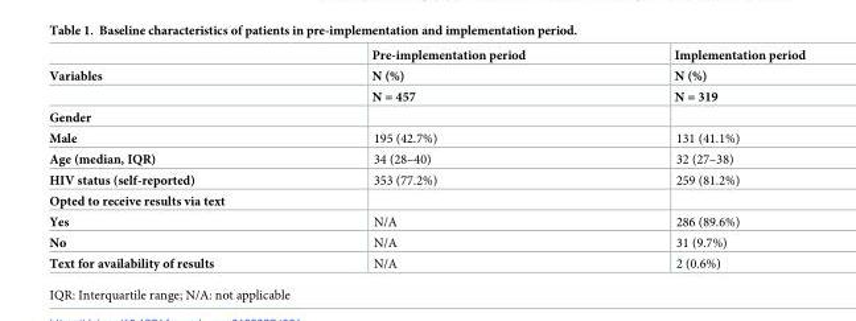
<table><thead><tr><td rowspan="3">Variables</td><td rowspan="3">Pre-implementation period N (%) N = 457</td><td rowspan="3">Implementation period N (%) N = 319</td></tr><tr></tr><tr></tr></thead><tbody><tr><td colspan="3">Gender</td></tr><tr><td>Male</td><td>195 (42.7%)</td><td>131 (41.1%)</td></tr><tr><td>Age (median, IQR)</td><td>34 (28–40)</td><td>32 (27–38)</td></tr><tr><td>HIV status (self-reported)</td><td>353 (77.2%)</td><td>259 (81.2%)</td></tr><tr><td colspan="3">Opted to receive results via text</td></tr><tr><td>Yes</td><td>N/A</td><td>286 (89.6%)</td></tr><tr><td>No</td><td>N/A</td><td>31 (9.7%)</td></tr><tr><td>Text for availability of results</td><td>N/A</td><td>2 (0.6%)</td></tr></tbody></table>